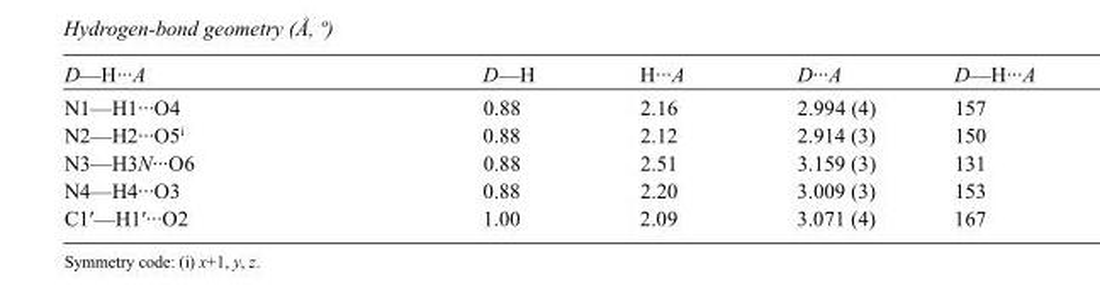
<table><tbody><tr><td>D—H···A</td><td>D—H</td><td>H···A</td><td>D···A</td><td>D—H···A</td></tr><tr><td>N1—H1···O4</td><td>0.88</td><td>2.16</td><td>2.994 (4)</td><td>157</td></tr><tr><td>N2—H2···O5<sup>i</sup></td><td>0.88</td><td>2.12</td><td>2.914 (3)</td><td>150</td></tr><tr><td>N3—H3N···O6</td><td>0.88</td><td>2.51</td><td>3.159 (3)</td><td>131</td></tr><tr><td>N4—H4···O3</td><td>0.88</td><td>2.20</td><td>3.009 (3)</td><td>153</td></tr><tr><td>C1′—H1′···O2</td><td>1.00</td><td>2.09</td><td>3.071 (4)</td><td>167</td></tr></tbody></table>